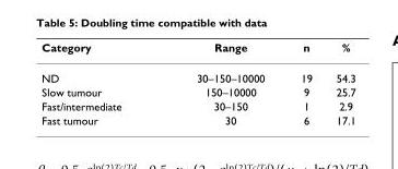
<table><thead><tr><td>Category</td><td>Range</td><td>n</td><td>%</td></tr></thead><tbody><tr><td>ND</td><td>30–150–10000</td><td>19</td><td>54.3</td></tr><tr><td>Slow tumour</td><td>150–10000</td><td>9</td><td>25.7</td></tr><tr><td>Fast/intermediate</td><td>30–150</td><td>1</td><td>2.9</td></tr><tr><td>Fast tumour</td><td>30</td><td>6</td><td>17.1</td></tr></tbody></table>